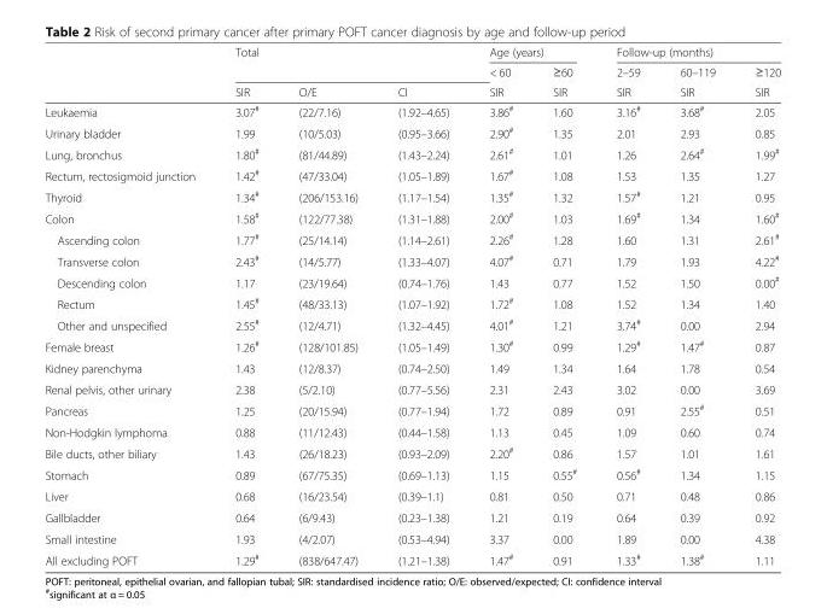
<table><thead><tr><td rowspan="3"></td><td rowspan="2" colspan="3">Total</td><td colspan="2">Age (years)</td><td colspan="3">Follow-up (months)</td></tr><tr><td rowspan="2">&lt; 60 SIR</td><td rowspan="2">≥60 SIR</td><td rowspan="2">2–59 SIR</td><td rowspan="2">60–119 SIR</td><td rowspan="2">≥120 SIR</td></tr><tr><td>SIR</td><td>O/E</td><td>CI</td></tr></thead><tbody><tr><td>Leukaemia</td><td>3.07<sup>#</sup></td><td>(22/7.16)</td><td>(1.92–4.65)</td><td>3.86<sup>#</sup></td><td>1.60</td><td>3.16<sup>#</sup></td><td>3.68<sup>#</sup></td><td>2.05</td></tr><tr><td>Urinary bladder</td><td>1.99</td><td>(10/5.03)</td><td>(0.95–3.66)</td><td>2.90<sup>#</sup></td><td>1.35</td><td>2.01</td><td>2.93</td><td>0.85</td></tr><tr><td>Lung, bronchus</td><td>1.80<sup>#</sup></td><td>(81/44.89)</td><td>(1.43–2.24)</td><td>2.61<sup>#</sup></td><td>1.01</td><td>1.26</td><td>2.64<sup>#</sup></td><td>1.99<sup>#</sup></td></tr><tr><td>Rectum, rectosigmoid junction</td><td>1.42<sup>#</sup></td><td>(47/33.04)</td><td>(1.05–1.89)</td><td>1.67<sup>#</sup></td><td>1.08</td><td>1.53</td><td>1.35</td><td>1.27</td></tr><tr><td>Thyroid</td><td>1.34<sup>#</sup></td><td>(206/153.16)</td><td>(1.17–1.54)</td><td>1.35<sup>#</sup></td><td>1.32</td><td>1.57<sup>#</sup></td><td>1.21</td><td>0.95</td></tr><tr><td>Colon</td><td>1.58<sup>#</sup></td><td>(122/77.38)</td><td>(1.31–1.88)</td><td>2.00<sup>#</sup></td><td>1.03</td><td>1.69<sup>#</sup></td><td>1.34</td><td>1.60<sup>#</sup></td></tr><tr><td>Ascending colon</td><td>1.77<sup>#</sup></td><td>(25/14.14)</td><td>(1.14–2.61)</td><td>2.26<sup>#</sup></td><td>1.28</td><td>1.60</td><td>1.31</td><td>2.61<sup>#</sup></td></tr><tr><td>Transverse colon</td><td>2.43<sup>#</sup></td><td>(14/5.77)</td><td>(1.33–4.07)</td><td>4.07<sup>#</sup></td><td>0.71</td><td>1.79</td><td>1.93</td><td>4.22<sup>#</sup></td></tr><tr><td>Descending colon</td><td>1.17</td><td>(23/19.64)</td><td>(0.74–1.76)</td><td>1.43</td><td>0.77</td><td>1.52</td><td>1.50</td><td>0.00<sup>#</sup></td></tr><tr><td>Rectum</td><td>1.45<sup>#</sup></td><td>(48/33.13)</td><td>(1.07–1.92)</td><td>1.72<sup>#</sup></td><td>1.08</td><td>1.52</td><td>1.34</td><td>1.40</td></tr><tr><td>Other and unspecified</td><td>2.55<sup>#</sup></td><td>(12/4.71)</td><td>(1.32–4.45)</td><td>4.01<sup>#</sup></td><td>1.21</td><td>3.74<sup>#</sup></td><td>0.00</td><td>2.94</td></tr><tr><td>Female breast</td><td>1.26<sup>#</sup></td><td>(128/101.85)</td><td>(1.05–1.49)</td><td>1.30<sup>#</sup></td><td>0.99</td><td>1.29<sup>#</sup></td><td>1.47<sup>#</sup></td><td>0.87</td></tr><tr><td>Kidney parenchyma</td><td>1.43</td><td>(12/8.37)</td><td>(0.74–2.50)</td><td>1.49</td><td>1.34</td><td>1.64</td><td>1.78</td><td>0.54</td></tr><tr><td>Renal pelvis, other urinary</td><td>2.38</td><td>(5/2.10)</td><td>(0.77–5.56)</td><td>2.31</td><td>2.43</td><td>3.02</td><td>0.00</td><td>3.69</td></tr><tr><td>Pancreas</td><td>1.25</td><td>(20/15.94)</td><td>(0.77–1.94)</td><td>1.72</td><td>0.89</td><td>0.91</td><td>2.55<sup>#</sup></td><td>0.51</td></tr><tr><td>Non-Hodgkin lymphoma</td><td>0.88</td><td>(11/12.43)</td><td>(0.44–1.58)</td><td>1.13</td><td>0.45</td><td>1.09</td><td>0.60</td><td>0.74</td></tr><tr><td>Bile ducts, other biliary</td><td>1.43</td><td>(26/18.23)</td><td>(0.93–2.09)</td><td>2.20<sup>#</sup></td><td>0.86</td><td>1.57</td><td>1.01</td><td>1.61</td></tr><tr><td>Stomach</td><td>0.89</td><td>(67/75.35)</td><td>(0.69–1.13)</td><td>1.15</td><td>0.55<sup>#</sup></td><td>0.56<sup>#</sup></td><td>1.34</td><td>1.15</td></tr><tr><td>Liver</td><td>0.68</td><td>(16/23.54)</td><td>(0.39–1.1)</td><td>0.81</td><td>0.50</td><td>0.71</td><td>0.48</td><td>0.86</td></tr><tr><td>Gallbladder</td><td>0.64</td><td>(6/9.43)</td><td>(0.23–1.38)</td><td>1.21</td><td>0.19</td><td>0.64</td><td>0.39</td><td>0.92</td></tr><tr><td>Small intestine</td><td>1.93</td><td>(4/2.07)</td><td>(0.53–4.94)</td><td>3.37</td><td>0.00</td><td>1.89</td><td>0.00</td><td>4.38</td></tr><tr><td>All excluding POFT</td><td>1.29<sup>#</sup></td><td>(838/647.47)</td><td>(1.21–1.38)</td><td>1.47<sup>#</sup></td><td>0.91</td><td>1.33<sup>#</sup></td><td>1.38<sup>#</sup></td><td>1.11</td></tr></tbody></table>